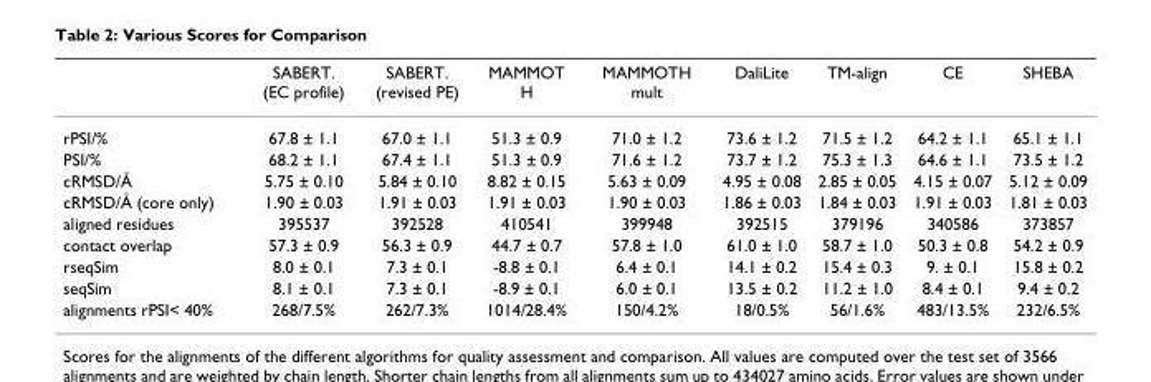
<table><thead><tr><td></td><td>SABERT. (EC profile)</td><td>SABERT. (revised PE)</td><td>MAMMOT H</td><td>MAMMOTH mult</td><td>DaliLite</td><td>TM-align</td><td>CE</td><td>SHEBA</td></tr></thead><tbody><tr><td>rPSI/%</td><td>67.8 ± 1.1</td><td>67.0 ± 1.1</td><td>51.3 ± 0.9</td><td>71.0 ± 1.2</td><td>73.6 ± 1.2</td><td>71.5 ± 1.2</td><td>64.2 ± 1.1</td><td>65.1 ± 1.1</td></tr><tr><td>PSI/%</td><td>68.2 ± 1.1</td><td>67.4 ± 1.1</td><td>51.3 ± 0.9</td><td>71.6 ± 1.2</td><td>73.7 ± 1.2</td><td>75.3 ± 1.3</td><td>64.6 ± 1.1</td><td>73.5 ± 1.2</td></tr><tr><td>cRMSD/Å</td><td>5.75 ± 0.10</td><td>5.84 ± 0.10</td><td>8.82 ± 0.15</td><td>5.63 ± 0.09</td><td>4.95 ± 0.08</td><td>2.85 ± 0.05</td><td>4.15 ± 0.07</td><td>5.12 ± 0.09</td></tr><tr><td>cRMSD/Å (core only)</td><td>1.90 ± 0.03</td><td>1.91 ± 0.03</td><td>1.91 ± 0.03</td><td>1.90 ± 0.03</td><td>1.86 ± 0.03</td><td>1.84 ± 0.03</td><td>1.91 ± 0.03</td><td>1.81 ± 0.03</td></tr><tr><td>aligned residues</td><td>395537</td><td>392528</td><td>410541</td><td>399948</td><td>392515</td><td>379196</td><td>340586</td><td>373857</td></tr><tr><td>contact overlap</td><td>57.3 ± 0.9</td><td>56.3 ± 0.9</td><td>44.7 ± 0.7</td><td>57.8 ± 1.0</td><td>61.0 ± 1.0</td><td>58.7 ± 1.0</td><td>50.3 ± 0.8</td><td>54.2 ± 0.9</td></tr><tr><td>rseqSim</td><td>8.0 ± 0.1</td><td>7.3 ± 0.1</td><td>-8.8 ± 0.1</td><td>6.4 ± 0.1</td><td>14.1 ± 0.2</td><td>15.4 ± 0.3</td><td>9. ± 0.1</td><td>15.8 ± 0.2</td></tr><tr><td>seqSim</td><td>8.1 ± 0.1</td><td>7.3 ± 0.1</td><td>-8.9 ± 0.1</td><td>6.0 ± 0.1</td><td>13.5 ± 0.2</td><td>11.2 ± 1.0</td><td>8.4 ± 0.1</td><td>9.4 ± 0.2</td></tr><tr><td>alignments rPSI&lt; 40%</td><td>268/7.5%</td><td>262/7.3%</td><td>1014/28.4%</td><td>150/4.2%</td><td>18/0.5%</td><td>56/1.6%</td><td>483/13.5%</td><td>232/6.5%</td></tr></tbody></table>